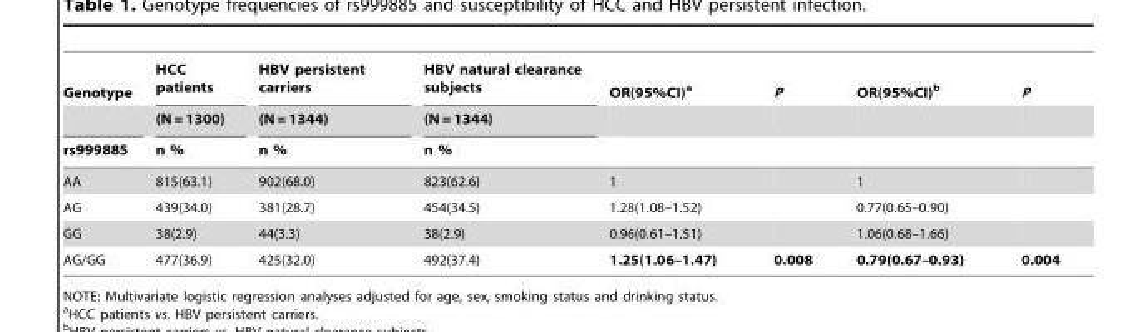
<table><thead><tr><td rowspan="3">Genotype rs999885</td><td rowspan="3">HCC patients (N = 1300) n %</td><td rowspan="3">HBV persistent carriers (N = 1344) n %</td><td rowspan="3">HBV natural clearance subjects (N = 1344) n %</td><td rowspan="3">OR(95%CI)<sup>a</sup></td><td rowspan="3">P</td><td rowspan="3">OR(95%CI)<sup>b</sup></td><td rowspan="3">P</td></tr><tr></tr><tr></tr></thead><tbody><tr><td>AA</td><td>815(63.1)</td><td>902(68.0)</td><td>823(62.6)</td><td>1</td><td></td><td>1</td><td></td></tr><tr><td>AG</td><td>439(34.0)</td><td>381(28.7)</td><td>454(34.5)</td><td>1.28(1.08–1.52)</td><td></td><td>0.77(0.65–0.90)</td><td></td></tr><tr><td>GG</td><td>38(2.9)</td><td>44(3.3)</td><td>38(2.9)</td><td>0.96(0.61–1.51)</td><td></td><td>1.06(0.68–1.66)</td><td></td></tr><tr><td>AG/GG</td><td>477(36.9)</td><td>425(32.0)</td><td>492(37.4)</td><td>1.25(1.06–1.47)</td><td>0.008</td><td>0.79(0.67–0.93)</td><td>0.004</td></tr></tbody></table>